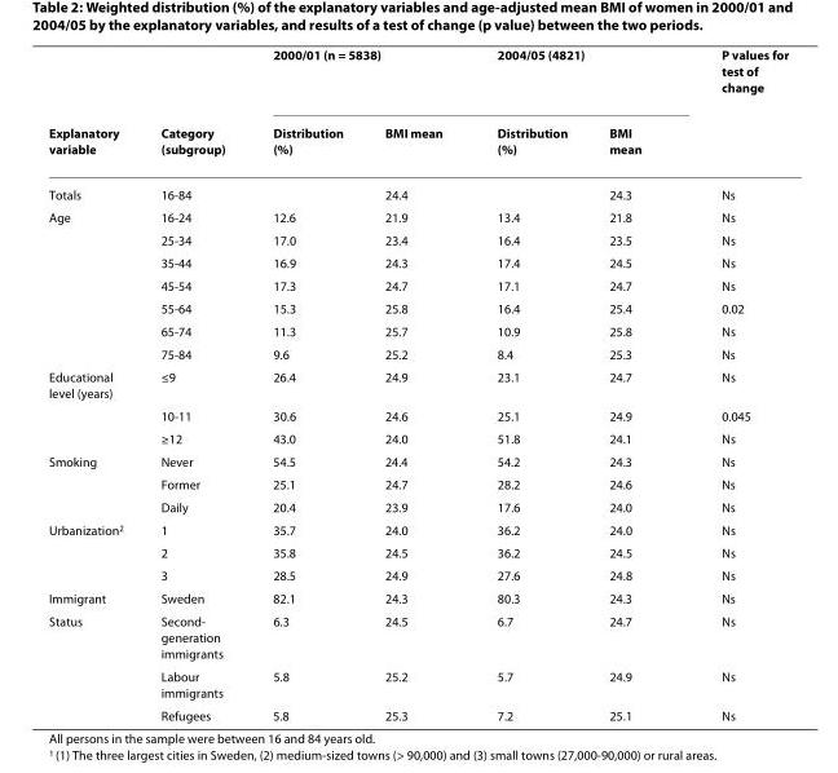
<table><thead><tr><td rowspan="2">Explanatory variable</td><td rowspan="2">Category (subgroup)</td><td colspan="2">2000/01 (n = 5838)</td><td colspan="2">2004/05 (4821)</td><td rowspan="2">P values for test of change</td></tr><tr><td>Distribution (%)</td><td>BMI mean</td><td>Distribution (%)</td><td>BMI mean</td></tr></thead><tbody><tr><td>Totals</td><td>16-84</td><td></td><td>24.4</td><td></td><td>24.3</td><td>Ns</td></tr><tr><td rowspan="7">Age</td><td>16-24</td><td>12.6</td><td>21.9</td><td>13.4</td><td>21.8</td><td>Ns</td></tr><tr><td>25-34</td><td>17.0</td><td>23.4</td><td>16.4</td><td>23.5</td><td>Ns</td></tr><tr><td>35-44</td><td>16.9</td><td>24.3</td><td>17.4</td><td>24.5</td><td>Ns</td></tr><tr><td>45-54</td><td>17.3</td><td>24.7</td><td>17.1</td><td>24.7</td><td>Ns</td></tr><tr><td>55-64</td><td>15.3</td><td>25.8</td><td>16.4</td><td>25.4</td><td>0.02</td></tr><tr><td>65-74</td><td>11.3</td><td>25.7</td><td>10.9</td><td>25.8</td><td>Ns</td></tr><tr><td>75-84</td><td>9.6</td><td>25.2</td><td>8.4</td><td>25.3</td><td>Ns</td></tr><tr><td rowspan="3">Educational level (years)</td><td>≤9</td><td>26.4</td><td>24.9</td><td>23.1</td><td>24.7</td><td>Ns</td></tr><tr><td>10-11</td><td>30.6</td><td>24.6</td><td>25.1</td><td>24.9</td><td>0.045</td></tr><tr><td>≥12</td><td>43.0</td><td>24.0</td><td>51.8</td><td>24.1</td><td>Ns</td></tr><tr><td rowspan="3">Smoking</td><td>Never</td><td>54.5</td><td>24.4</td><td>54.2</td><td>24.3</td><td>Ns</td></tr><tr><td>Former</td><td>25.1</td><td>24.7</td><td>28.2</td><td>24.6</td><td>Ns</td></tr><tr><td>Daily</td><td>20.4</td><td>23.9</td><td>17.6</td><td>24.0</td><td>Ns</td></tr><tr><td rowspan="3">Urbanization<sup>2</sup></td><td>1</td><td>35.7</td><td>24.0</td><td>36.2</td><td>24.0</td><td>Ns</td></tr><tr><td>2</td><td>35.8</td><td>24.5</td><td>36.2</td><td>24.5</td><td>Ns</td></tr><tr><td>3</td><td>28.5</td><td>24.9</td><td>27.6</td><td>24.8</td><td>Ns</td></tr><tr><td>Immigrant</td><td>Sweden</td><td>82.1</td><td>24.3</td><td>80.3</td><td>24.3</td><td>Ns</td></tr><tr><td rowspan="3">Status</td><td>Second- generation immigrants</td><td>6.3</td><td>24.5</td><td>6.7</td><td>24.7</td><td>Ns</td></tr><tr><td>Labour immigrants</td><td>5.8</td><td>25.2</td><td>5.7</td><td>24.9</td><td>Ns</td></tr><tr><td>Refugees</td><td>5.8</td><td>25.3</td><td>7.2</td><td>25.1</td><td>Ns</td></tr></tbody></table>